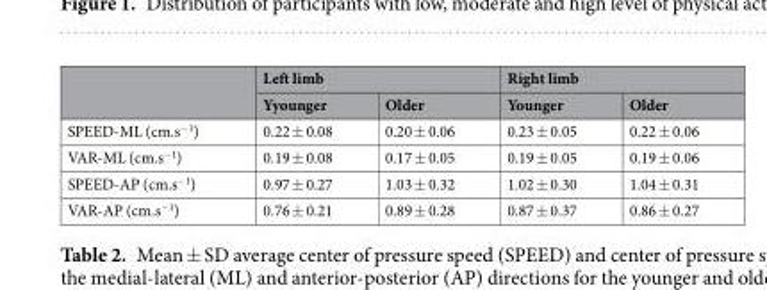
<table><thead><tr><td rowspan="2"></td><td colspan="2">Left limb</td><td colspan="2">Right limb</td></tr><tr><td>Yyounger</td><td>Older</td><td>Younger</td><td>Older</td></tr></thead><tbody><tr><td>SPEED-ML (cm.s<sup>−1</sup>)</td><td>0.22 ± 0.08</td><td>0.20 ± 0.06</td><td>0.23 ± 0.05</td><td>0.22 ± 0.06</td></tr><tr><td>VAR-ML (cm.s<sup>−1</sup>)</td><td>0.19 ± 0.08</td><td>0.17 ± 0.05</td><td>0.19 ± 0.05</td><td>0.19 ± 0.06</td></tr><tr><td>SPEED-AP (cm.s<sup>−1</sup>)</td><td>0.97 ± 0.27</td><td>1.03 ± 0.32</td><td>1.02 ± 0.30</td><td>1.04 ± 0.31</td></tr><tr><td>VAR-AP (cm.s<sup>−1</sup>)</td><td>0.76 ± 0.21</td><td>0.89 ± 0.28</td><td>0.87 ± 0.37</td><td>0.86 ± 0.27</td></tr></tbody></table>